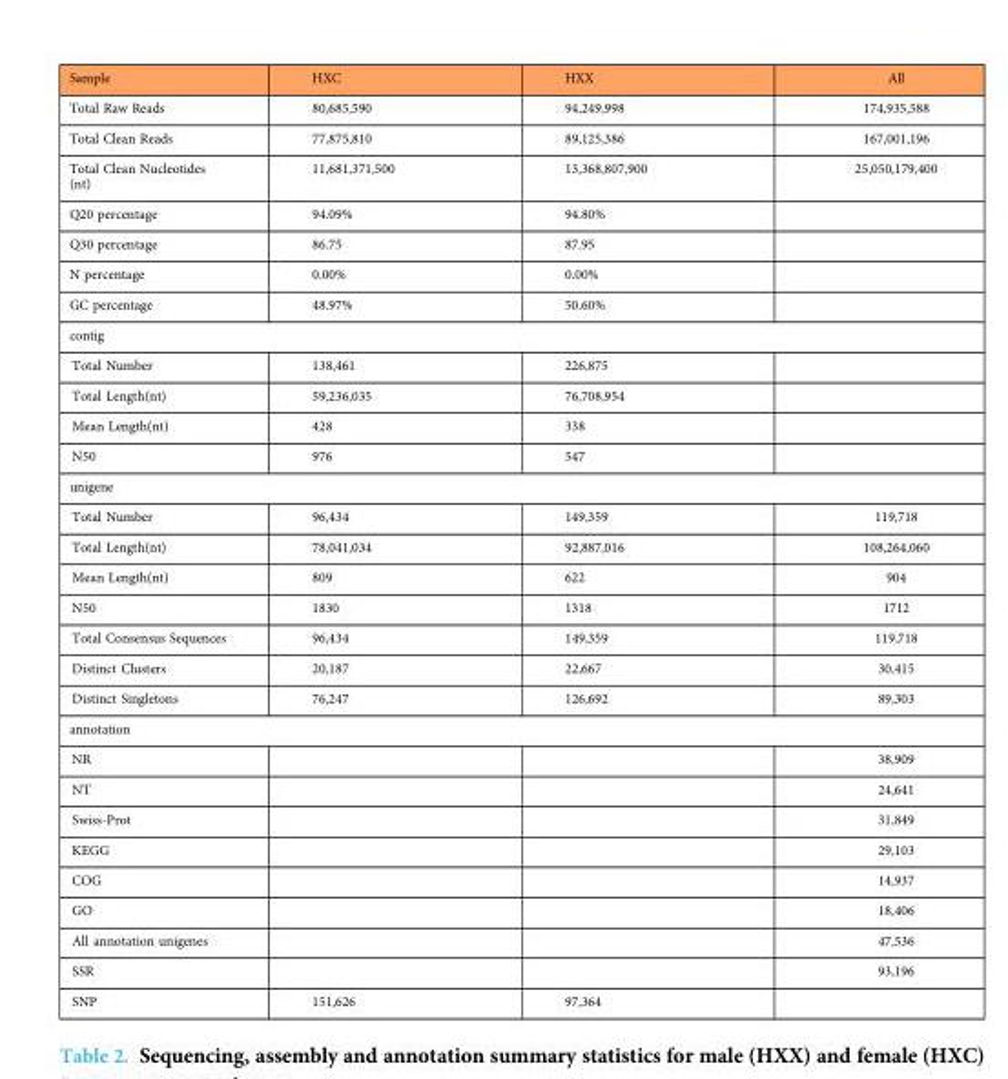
<table><thead><tr><td>Sample</td><td>HXC</td><td>HXX</td><td>All</td></tr></thead><tbody><tr><td>Total Raw Reads</td><td>80,685,590</td><td>94,249,998</td><td>174,935,588</td></tr><tr><td>Total Clean Reads</td><td>77,875,810</td><td>89,125,386</td><td>167,001,196</td></tr><tr><td>Total Clean Nucleotides (nt)</td><td>11,681,371,500</td><td>13,368,807,900</td><td>25,050,179,400</td></tr><tr><td>Q20 percentage</td><td>94.09%</td><td>94.80%</td><td></td></tr><tr><td>Q30 percentage</td><td>86.75</td><td>87.95</td><td></td></tr><tr><td>N percentage</td><td>0.00%</td><td>0.00%</td><td></td></tr><tr><td>GC percentage</td><td>48.97%</td><td>50.60%</td><td></td></tr><tr><td colspan="4">contig</td></tr><tr><td>Total Number</td><td>138,461</td><td>226,875</td><td></td></tr><tr><td>Total Length(nt)</td><td>59,236,035</td><td>76,708,954</td><td></td></tr><tr><td>Mean Length(nt)</td><td>428</td><td>338</td><td></td></tr><tr><td>N50</td><td>976</td><td>547</td><td></td></tr><tr><td colspan="4">unigene</td></tr><tr><td>Total Number</td><td>96,434</td><td>149,359</td><td>119,718</td></tr><tr><td>Total Length(nt)</td><td>78,041,034</td><td>92,887,016</td><td>108,264,060</td></tr><tr><td>Mean Length(nt)</td><td>809</td><td>622</td><td>904</td></tr><tr><td>N50</td><td>1830</td><td>1318</td><td>1712</td></tr><tr><td>Total Consensus Sequences</td><td>96,434</td><td>149,359</td><td>119,718</td></tr><tr><td>Distinct Clusters</td><td>20,187</td><td>22,667</td><td>30,415</td></tr><tr><td>Distinct Singletons</td><td>76,247</td><td>126,692</td><td>89,303</td></tr><tr><td colspan="4">annotation</td></tr><tr><td>NR</td><td></td><td></td><td>38,909</td></tr><tr><td>NT</td><td></td><td></td><td>24,641</td></tr><tr><td>Swiss-Prot</td><td></td><td></td><td>31,849</td></tr><tr><td>KEGG</td><td></td><td></td><td>29,103</td></tr><tr><td>COG</td><td></td><td></td><td>14,937</td></tr><tr><td>GO</td><td></td><td></td><td>18,406</td></tr><tr><td>All annotation unigenes</td><td></td><td></td><td>47,536</td></tr><tr><td>SSR</td><td></td><td></td><td>93,196</td></tr><tr><td>SNP</td><td>151,626</td><td>97,364</td><td></td></tr></tbody></table>